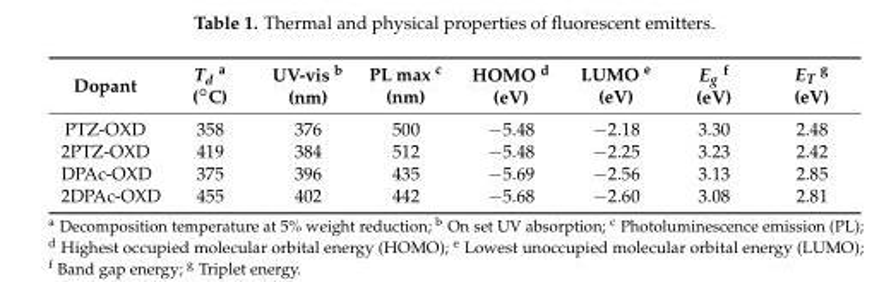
<table><thead><tr><td>Dopant</td><td>Td a (◦C)</td><td>UV-vis b (nm)</td><td>PL max c (nm)</td><td>HOMO d (eV)</td><td>LUMO e (eV)</td><td>Eg f (eV)</td><td>ET g (eV)</td></tr></thead><tbody><tr><td>PTZ-OXD 2PTZ-OXD DPAc-OXD 2DPAc-OXD</td><td>358 419 375 455</td><td>376 384 396 402</td><td>500 512 435 442</td><td>−5.48 −5.48 −5.69 −5.68</td><td>−2.18 −2.25 −2.56 −2.60</td><td>3.30 3.23 3.13 3.08</td><td>2.48 2.42 2.85 2.81</td></tr></tbody></table>